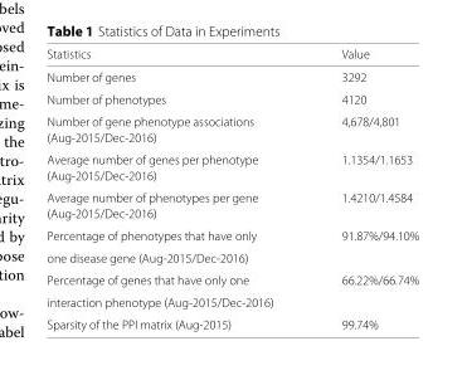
<table><thead><tr><td>Statistics</td><td>Value</td></tr></thead><tbody><tr><td>Number of genes</td><td>3292</td></tr><tr><td>Number of phenotypes</td><td>4120</td></tr><tr><td>Number of gene phenotype associations</td><td>4,678/4,801</td></tr><tr><td colspan="2">(Aug-2015/Dec-2016)</td></tr><tr><td>Average number of genes per phenotype</td><td>1.1354/1.1653</td></tr><tr><td colspan="2">(Aug-2015/Dec-2016)</td></tr><tr><td>Average number of phenotypes per gene</td><td>1.4210/1.4584</td></tr><tr><td colspan="2">(Aug-2015/Dec-2016)</td></tr><tr><td>Percentage of phenotypes that have only</td><td>91.87%/94.10%</td></tr><tr><td colspan="2">one disease gene (Aug-2015/Dec-2016)</td></tr><tr><td>Percentage of genes that have only one</td><td>66.22%/66.74%</td></tr><tr><td colspan="2">interaction phenotype (Aug-2015/Dec-2016)</td></tr><tr><td>Sparsity of the PPI matrix (Aug-2015)</td><td>99.74%</td></tr></tbody></table>